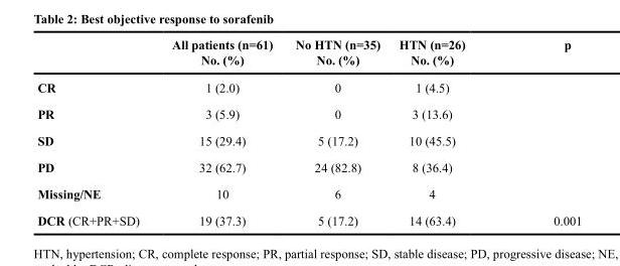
<table><thead><tr><td></td><td>All patients (n=61) No. (%)</td><td>No HTN (n=35) No. (%)</td><td>HTN (n=26) No. (%)</td><td>p</td></tr></thead><tbody><tr><td>CR</td><td>1 (2.0)</td><td>0</td><td>1 (4.5)</td><td></td></tr><tr><td>PR</td><td>3 (5.9)</td><td>0</td><td>3 (13.6)</td><td></td></tr><tr><td>SD</td><td>15 (29.4)</td><td>5 (17.2)</td><td>10 (45.5)</td><td></td></tr><tr><td>PD</td><td>32 (62.7)</td><td>24 (82.8)</td><td>8 (36.4)</td><td></td></tr><tr><td>Missing/NE</td><td>10</td><td>6</td><td>4</td><td></td></tr><tr><td>DCR (CR+PR+SD)</td><td>19 (37.3)</td><td>5 (17.2)</td><td>14 (63.4)</td><td>0.001</td></tr></tbody></table>